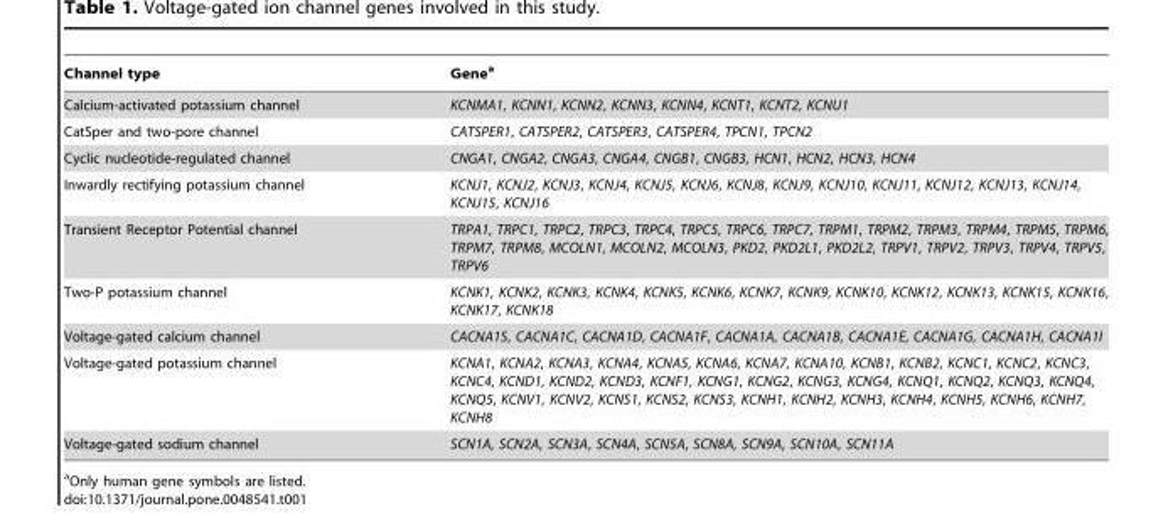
<table><thead><tr><td>Channel type</td><td>Gene<sup>a</sup></td></tr></thead><tbody><tr><td>Calcium-activated potassium channel</td><td>KCNMA1, KCNN1, KCNN2, KCNN3, KCNN4, KCNT1, KCNT2, KCNU1</td></tr><tr><td>CatSper and two-pore channel</td><td>CATSPER1, CATSPER2, CATSPER3, CATSPER4, TPCN1, TPCN2</td></tr><tr><td>Cyclic nucleotide-regulated channel</td><td>CNGA1, CNGA2, CNGA3, CNGA4, CNGB1, CNGB3, HCN1, HCN2, HCN3, HCN4</td></tr><tr><td>Inwardly rectifying potassium channel</td><td>KCNJ1, KCNJ2, KCNJ3, KCNJ4, KCNJ5, KCNJ6, KCNJ8, KCNJ9, KCNJ10, KCNJ11, KCNJ12, KCNJ13, KCNJ14, KCNJ15, KCNJ16</td></tr><tr><td>Transient Receptor Potential channel</td><td>TRPA1, TRPC1, TRPC2, TRPC3, TRPC4, TRPC5, TRPC6, TRPC7, TRPM1, TRPM2, TRPM3, TRPM4, TRPM5, TRPM6, TRPM7, TRPM8, MCOLN1, MCOLN2, MCOLN3, PKD2, PKD2L1, PKD2L2, TRPV1, TRPV2, TRPV3, TRPV4, TRPV5, TRPV6</td></tr><tr><td>Two-P potassium channel</td><td>KCNK1, KCNK2, KCNK3, KCNK4, KCNK5, KCNK6, KCNK7, KCNK9, KCNK10, KCNK12, KCNK13, KCNK15, KCNK16, KCNK17, KCNK18</td></tr><tr><td>Voltage-gated calcium channel</td><td>CACNA1S, CACNA1C, CACNA1D, CACNA1F, CACNA1A, CACNA1B, CACNA1E, CACNA1G, CACNA1H, CACNA1I</td></tr><tr><td>Voltage-gated potassium channel</td><td>KCNA1, KCNA2, KCNA3, KCNA4, KCNA5, KCNA6, KCNA7, KCNA10, KCNB1, KCNB2, KCNC1, KCNC2, KCNC3, KCNC4, KCND1, KCND2, KCND3, KCNF1, KCNG1, KCNG2, KCNG3, KCNG4, KCNQ1, KCNQ2, KCNQ3, KCNQ4, KCNQ5, KCNV1, KCNV2, KCNS1, KCNS2, KCNS3, KCNH1, KCNH2, KCNH3, KCNH4, KCNH5, KCNH6, KCNH7, KCNH8</td></tr><tr><td>Voltage-gated sodium channel</td><td>SCN1A, SCN2A, SCN3A, SCN4A, SCN5A, SCN8A, SCN9A, SCN10A, SCN11A</td></tr></tbody></table>